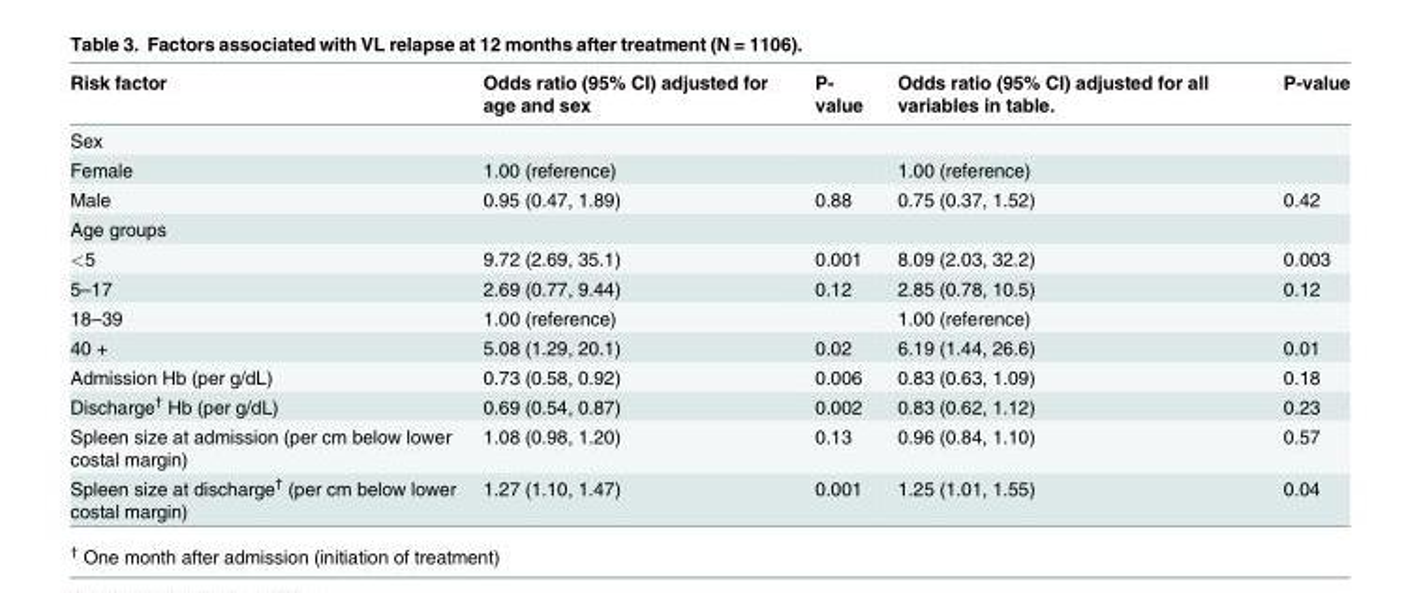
<table><thead><tr><td>Risk factor</td><td>Odds ratio (95% CI) adjusted for age and sex</td><td>P- value</td><td>Odds ratio (95% CI) adjusted for all variables in table.</td><td>P-value</td></tr></thead><tbody><tr><td colspan="5">Sex</td></tr><tr><td>Female</td><td>1.00 (reference)</td><td></td><td>1.00 (reference)</td><td></td></tr><tr><td>Male</td><td>0.95 (0.47, 1.89)</td><td>0.88</td><td>0.75 (0.37, 1.52)</td><td>0.42</td></tr><tr><td colspan="5">Age groups</td></tr><tr><td>&lt;5</td><td>9.72 (2.69, 35.1)</td><td>0.001</td><td>8.09 (2.03, 32.2)</td><td>0.003</td></tr><tr><td>5–17</td><td>2.69 (0.77, 9.44)</td><td>0.12</td><td>2.85 (0.78, 10.5)</td><td>0.12</td></tr><tr><td>18–39</td><td>1.00 (reference)</td><td></td><td>1.00 (reference)</td><td></td></tr><tr><td>40 +</td><td>5.08 (1.29, 20.1)</td><td>0.02</td><td>6.19 (1.44, 26.6)</td><td>0.01</td></tr><tr><td>Admission Hb (per g/dL)</td><td>0.73 (0.58, 0.92)</td><td>0.006</td><td>0.83 (0.63, 1.09)</td><td>0.18</td></tr><tr><td>Discharge<sup>†</sup> Hb (per g/dL)</td><td>0.69 (0.54, 0.87)</td><td>0.002</td><td>0.83 (0.62, 1.12)</td><td>0.23</td></tr><tr><td>Spleen size at admission (per cm below lower costal margin)</td><td>1.08 (0.98, 1.20)</td><td>0.13</td><td>0.96 (0.84, 1.10)</td><td>0.57</td></tr><tr><td>Spleen size at discharge<sup>†</sup> (per cm below lower costal margin)</td><td>1.27 (1.10, 1.47)</td><td>0.001</td><td>1.25 (1.01, 1.55)</td><td>0.04</td></tr></tbody></table>